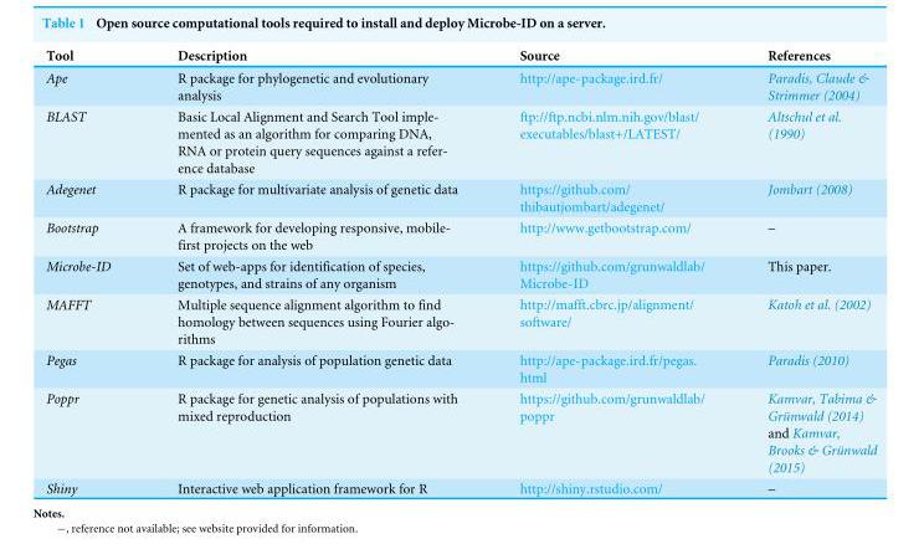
<table><thead><tr><td>Tool</td><td>Description</td><td>Source</td><td>References</td></tr></thead><tbody><tr><td>Ape</td><td>R package for phylogenetic and evolutionary analysis</td><td>http://ape-package.ird.fr/</td><td>Paradis, Claude &amp; Strimmer (2004)</td></tr><tr><td>BLAST</td><td>Basic Local Alignment and Search Tool imple- mented as an algorithm for comparing DNA, RNA or protein query sequences against a refer- ence database</td><td>ftp://ftp.ncbi.nlm.nih.gov/blast/ executables/blast+/LATEST/</td><td>Altschul et al. (1990)</td></tr><tr><td>Adegenet</td><td>R package for multivariate analysis of genetic data</td><td>https://github.com/ thibautjombart/adegenet/</td><td>Jombart (2008)</td></tr><tr><td>Bootstrap</td><td>A framework for developing responsive, mobile- first projects on the web</td><td>http://www.getbootstrap.com/</td><td>–</td></tr><tr><td>Microbe-ID</td><td>Set of web-apps for identification of species, genotypes, and strains of any organism</td><td>https://github.com/grunwaldlab/ Microbe-ID</td><td>This paper.</td></tr><tr><td>MAFFT</td><td>Multiple sequence alignment algorithm to find homology between sequences using Fourier algo- rithms</td><td>http://mafft.cbrc.jp/alignment/ software/</td><td>Katoh et al. (2002)</td></tr><tr><td>Pegas</td><td>R package for analysis of population genetic data</td><td>http://ape-package.ird.fr/pegas. html</td><td>Paradis (2010)</td></tr><tr><td>Poppr</td><td>R package for genetic analysis of populations with mixed reproduction</td><td>https://github.com/grunwaldlab/ poppr</td><td>Kamvar, Tabima &amp; Grünwald (2014) and Kamvar, Brooks &amp; Grünwald (2015)</td></tr><tr><td>Shiny</td><td>Interactive web application framework for R</td><td>http://shiny.rstudio.com/</td><td>–</td></tr></tbody></table>